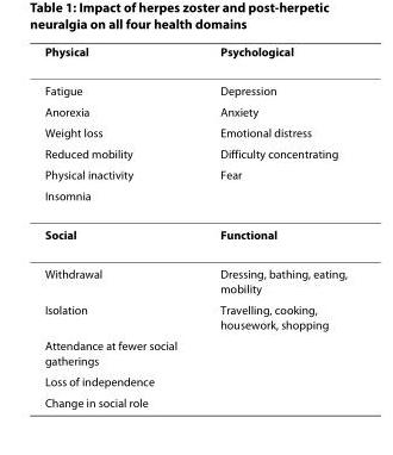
<table><thead><tr><td>Physical</td><td>Psychological</td></tr></thead><tbody><tr><td>Fatigue</td><td>Depression</td></tr><tr><td>Anorexia</td><td>Anxiety</td></tr><tr><td>Weight loss</td><td>Emotional distress</td></tr><tr><td>Reduced mobility</td><td>Difficulty concentrating</td></tr><tr><td>Physical inactivity</td><td>Fear</td></tr><tr><td colspan="2">Insomnia</td></tr><tr><td>Social</td><td>Functional</td></tr><tr><td>Withdrawal</td><td>Dressing, bathing, eating, mobility</td></tr><tr><td>Isolation</td><td>Travelling, cooking, housework, shopping</td></tr><tr><td colspan="2">Attendance at fewer social gatherings</td></tr><tr><td colspan="2">Loss of independence</td></tr><tr><td>Change in social role</td><td></td></tr></tbody></table>